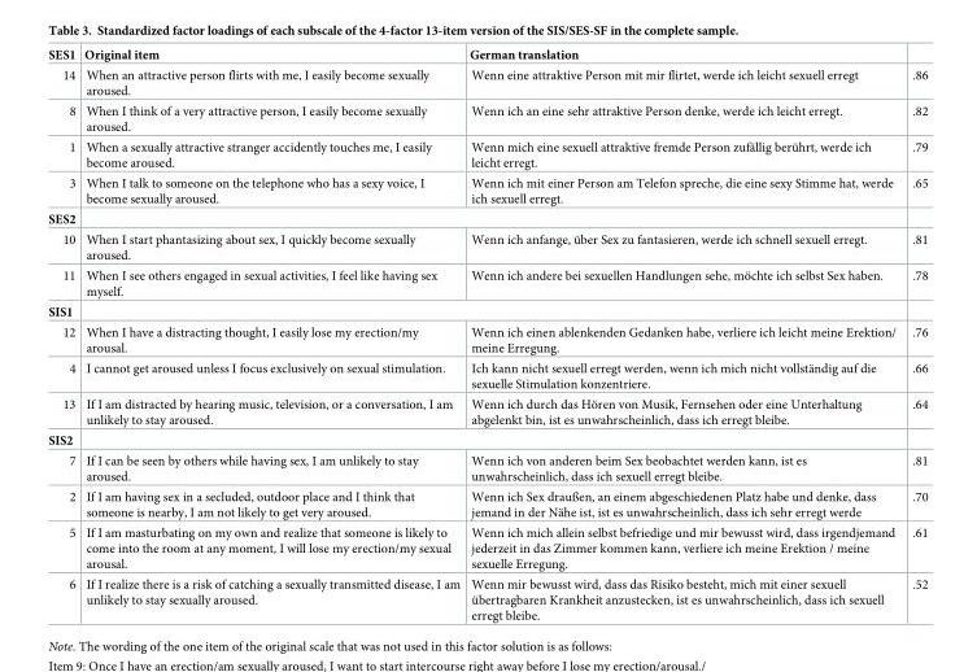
<table><thead><tr><td>SES1</td><td>Original item</td><td>German translation</td><td></td></tr></thead><tbody><tr><td>14</td><td>When an attractive person flirts with me, I easily become sexually aroused.</td><td>Wenn eine attraktive Person mit mir flirtet, werde ich leicht sexuell erregt</td><td>.86</td></tr><tr><td>8</td><td>When I think of a very attractive person, I easily become sexually aroused.</td><td>Wenn ich an eine sehr attraktive Person denke, werde ich leicht erregt.</td><td>.82</td></tr><tr><td>1</td><td>When a sexually attractive stranger accidently touches me, I easily become aroused.</td><td>Wenn mich eine sexuell attraktive fremde Person zufa¨llig beru¨hrt, werde ich leicht erregt.</td><td>.79</td></tr><tr><td>3</td><td>When I talk to someone on the telephone who has a sexy voice, I become sexually aroused.</td><td>Wenn ich mit einer Person am Telefon spreche, die eine sexy Stimme hat, werde ich sexuell erregt.</td><td>.65</td></tr><tr><td colspan="4">SES2</td></tr><tr><td>10</td><td>When I start phantasizing about sex, I quickly become sexually aroused.</td><td>Wenn ich anfange, u¨ber Sex zu fantasieren, werde ich schnell sexuell erregt.</td><td>.81</td></tr><tr><td>11</td><td>When I see others engaged in sexual activities, I feel like having sex myself.</td><td>Wenn ich andere bei sexuellen Handlungen sehe, mo¨chte ich selbst Sex haben.</td><td>.78</td></tr><tr><td colspan="4">SIS1</td></tr><tr><td>12</td><td>When I have a distracting thought, I easily lose my erection/my arousal.</td><td>Wenn ich einen ablenkenden Gedanken habe, verliere ich leicht meine Erektion/ meine Erregung.</td><td>.76</td></tr><tr><td>4</td><td>I cannot get aroused unless I focus exclusively on sexual stimulation.</td><td>Ich kann nicht sexuell erregt werden, wenn ich mich nicht vollsta¨ndig auf die sexuelle Stimulation konzentriere.</td><td>.66</td></tr><tr><td>13</td><td>If I am distracted by hearing music, television, or a conversation, I am unlikely to stay aroused.</td><td>Wenn ich durch das Ho¨ren von Musik, Fernsehen oder eine Unterhaltung abgelenkt bin, ist es unwahrscheinlich, dass ich erregt bleibe.</td><td>.64</td></tr><tr><td colspan="4">SIS2</td></tr><tr><td>7</td><td>If I can be seen by others while having sex, I am unlikely to stay aroused.</td><td>Wenn ich von anderen beim Sex beobachtet werden kann, ist es unwahrscheinlich, dass ich sexuell erregt bleibe.</td><td>.81</td></tr><tr><td>2</td><td>If I am having sex in a secluded, outdoor place and I think that someone is nearby, I am not likely to get very aroused.</td><td>Wenn ich Sex draußen, an einem abgeschiedenen Platz habe und denke, dass jemand in der Na¨he ist, ist es unwahrscheinlich, dass ich sehr erregt werde</td><td>.70</td></tr><tr><td>5</td><td>If I am masturbating on my own and realize that someone is likely to come into the room at any moment, I will lose my erection/my sexual arousal.</td><td>Wenn ich mich allein selbst befriedige und mir bewusst wird, dass irgendjemand jederzeit in das Zimmer kommen kann, verliere ich meine Erektion / meine sexuelle Erregung.</td><td>.61</td></tr><tr><td>6</td><td>If I realize there is a risk of catching a sexually transmitted disease, I am unlikely to stay sexually aroused.</td><td>Wenn mir bewusst wird, dass das Risiko besteht, mich mit einer sexuell u¨bertragbaren Krankheit anzustecken, ist es unwahrscheinlich, dass ich sexuell erregt bleibe.</td><td>.52</td></tr></tbody></table>